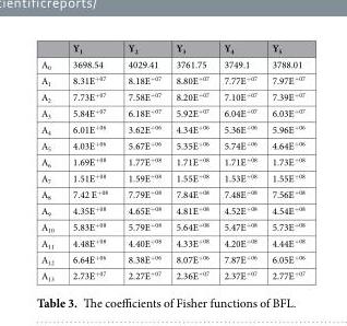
<table><thead><tr><td></td><td>Y<sub>1</sub></td><td>Y<sub>2</sub></td><td>Y<sub>3</sub></td><td>Y<sub>4</sub></td><td>Y<sub>5</sub></td></tr></thead><tbody><tr><td>A<sub>0</sub></td><td>3698.54</td><td>4029.41</td><td>3761.75</td><td>3749.1</td><td>3788.01</td></tr><tr><td>A<sub>1</sub></td><td>8.31E<sup>+07</sup></td><td>8.18E<sup>+07</sup></td><td>8.80E<sup>+07</sup></td><td>7.77E<sup>+07</sup></td><td>7.97E<sup>+07</sup></td></tr><tr><td>A<sub>2</sub></td><td>7.73E<sup>+07</sup></td><td>7.58E<sup>+07</sup></td><td>8.20E<sup>+07</sup></td><td>7.10E<sup>+07</sup></td><td>7.39E<sup>+07</sup></td></tr><tr><td>A<sub>3</sub></td><td>5.84E<sup>+07</sup></td><td>6.18E<sup>+07</sup></td><td>5.92E<sup>+07</sup></td><td>6.04E<sup>+07</sup></td><td>6.03E<sup>+07</sup></td></tr><tr><td>A<sub>4</sub></td><td>6.01E<sup>+06</sup></td><td>3.62E<sup>+06</sup></td><td>4.34E<sup>+06</sup></td><td>5.36E<sup>+06</sup></td><td>5.96E<sup>+06</sup></td></tr><tr><td>A<sub>5</sub></td><td>4.03E<sup>+06</sup></td><td>5.67E<sup>+06</sup></td><td>5.35E<sup>+06</sup></td><td>5.74E<sup>+06</sup></td><td>4.64E<sup>+06</sup></td></tr><tr><td>A<sub>6</sub></td><td>1.69E<sup>+08</sup></td><td>1.77E<sup>+08</sup></td><td>1.71E<sup>+08</sup></td><td>1.71E<sup>+08</sup></td><td>1.73E<sup>+08</sup></td></tr><tr><td>A<sub>7</sub></td><td>1.51E<sup>+08</sup></td><td>1.59E<sup>+08</sup></td><td>1.55E<sup>+08</sup></td><td>1.53E<sup>+08</sup></td><td>1.55E<sup>+08</sup></td></tr><tr><td>A<sub>8</sub></td><td>7.42 E<sup>+08</sup></td><td>7.79E<sup>+08</sup></td><td>7.84E<sup>+08</sup></td><td>7.48E<sup>+08</sup></td><td>7.56E<sup>+08</sup></td></tr><tr><td>A<sub>9</sub></td><td>4.35E<sup>+08</sup></td><td>4.65E<sup>+08</sup></td><td>4.81E<sup>+08</sup></td><td>4.52E<sup>+08</sup></td><td>4.54E<sup>+08</sup></td></tr><tr><td>A<sub>10</sub></td><td>5.83E<sup>+08</sup></td><td>5.79E<sup>+08</sup></td><td>5.64E<sup>+08</sup></td><td>5.47E<sup>+08</sup></td><td>5.73E<sup>+08</sup></td></tr><tr><td>A<sub>11</sub></td><td>4.48E<sup>+08</sup></td><td>4.40E<sup>+08</sup></td><td>4.33E<sup>+08</sup></td><td>4.20E<sup>+08</sup></td><td>4.44E<sup>+08</sup></td></tr><tr><td>A<sub>12</sub></td><td>6.64E<sup>+06</sup></td><td>8.38E<sup>+06</sup></td><td>8.07E<sup>+06</sup></td><td>7.87E<sup>+06</sup></td><td>6.05E<sup>+06</sup></td></tr><tr><td>A<sub>13</sub></td><td>2.73E<sup>+07</sup></td><td>2.27E<sup>+07</sup></td><td>2.36E<sup>+07</sup></td><td>2.37E<sup>+07</sup></td><td>2.77E<sup>+07</sup></td></tr></tbody></table>